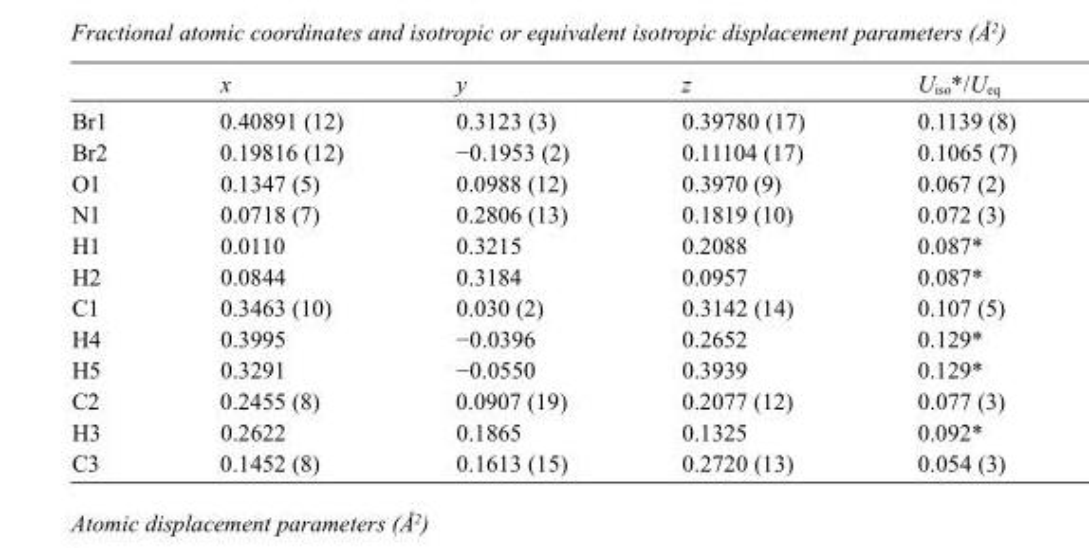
<table><thead><tr><td></td><td>x</td><td>y</td><td>z</td><td>U<sub>iso</sub>*/U<sub>eq</sub></td></tr></thead><tbody><tr><td>Br1</td><td>0.40891 (12)</td><td>0.3123 (3)</td><td>0.39780 (17)</td><td>0.1139 (8)</td></tr><tr><td>Br2</td><td>0.19816 (12)</td><td>−0.1953 (2)</td><td>0.11104 (17)</td><td>0.1065 (7)</td></tr><tr><td>O1</td><td>0.1347 (5)</td><td>0.0988 (12)</td><td>0.3970 (9)</td><td>0.067 (2)</td></tr><tr><td>N1</td><td>0.0718 (7)</td><td>0.2806 (13)</td><td>0.1819 (10)</td><td>0.072 (3)</td></tr><tr><td>H1</td><td>0.0110</td><td>0.3215</td><td>0.2088</td><td>0.087*</td></tr><tr><td>H2</td><td>0.0844</td><td>0.3184</td><td>0.0957</td><td>0.087*</td></tr><tr><td>C1</td><td>0.3463 (10)</td><td>0.030 (2)</td><td>0.3142 (14)</td><td>0.107 (5)</td></tr><tr><td>H4</td><td>0.3995</td><td>−0.0396</td><td>0.2652</td><td>0.129*</td></tr><tr><td>H5</td><td>0.3291</td><td>−0.0550</td><td>0.3939</td><td>0.129*</td></tr><tr><td>C2</td><td>0.2455 (8)</td><td>0.0907 (19)</td><td>0.2077 (12)</td><td>0.077 (3)</td></tr><tr><td>H3</td><td>0.2622</td><td>0.1865</td><td>0.1325</td><td>0.092*</td></tr><tr><td>C3</td><td>0.1452 (8)</td><td>0.1613 (15)</td><td>0.2720 (13)</td><td>0.054 (3)</td></tr></tbody></table>